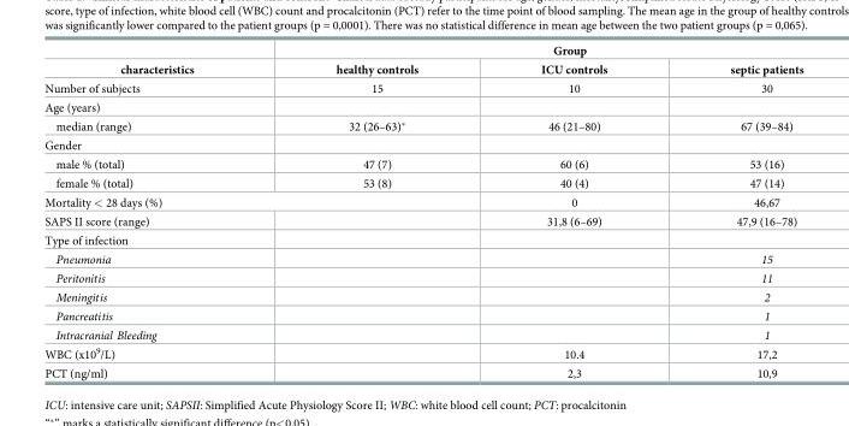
<table><thead><tr><td rowspan="2">characteristics</td><td colspan="3">Group</td></tr><tr><td>healthy controls</td><td>ICU controls</td><td>septic patients</td></tr></thead><tbody><tr><td>Number of subjects</td><td>15</td><td>10</td><td>30</td></tr><tr><td colspan="4">Age (years)</td></tr><tr><td>median (range)</td><td>32 (26–63)*</td><td>46 (21–80)</td><td>67 (39–84)</td></tr><tr><td colspan="4">Gender</td></tr><tr><td>male % (total)</td><td>47 (7)</td><td>60 (6)</td><td>53 (16)</td></tr><tr><td>female % (total)</td><td>53 (8)</td><td>40 (4)</td><td>47 (14)</td></tr><tr><td colspan="2">Mortality &lt; 28 days (%)</td><td>0</td><td>46,67</td></tr><tr><td>SAPS II score (range)</td><td></td><td>31,8 (6–69)</td><td>47,9 (16–78)</td></tr><tr><td colspan="4">Type of infection</td></tr><tr><td>Pneumonia</td><td></td><td></td><td>15</td></tr><tr><td>Peritonitis</td><td></td><td></td><td>11</td></tr><tr><td>Meningitis</td><td></td><td></td><td>2</td></tr><tr><td>Pancreatitis</td><td></td><td></td><td>1</td></tr><tr><td>Intracranial Bleeding</td><td></td><td></td><td>1</td></tr><tr><td>WBC (x10<sup>9</sup>/L)</td><td></td><td>10.4</td><td>17,2</td></tr><tr><td>PCT (ng/ml)</td><td></td><td>2,3</td><td>10,9</td></tr></tbody></table>